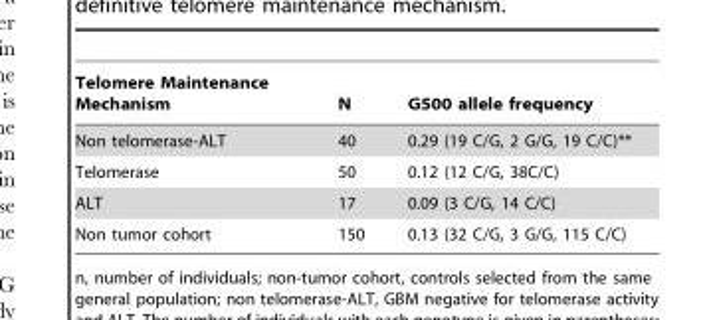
<table><thead><tr><td>Telomere Maintenance Mechanism</td><td>N</td><td>G500 allele frequency</td></tr></thead><tbody><tr><td>Non telomerase-ALT</td><td>40</td><td>0.29 (19 C/G, 2 G/G, 19 C/C)**</td></tr><tr><td>Telomerase</td><td>50</td><td>0.12 (12 C/G, 38C/C)</td></tr><tr><td>ALT</td><td>17</td><td>0.09 (3 C/G, 14 C/C)</td></tr><tr><td>Non tumor cohort</td><td>150</td><td>0.13 (32 C/G, 3 G/G, 115 C/C)</td></tr></tbody></table>